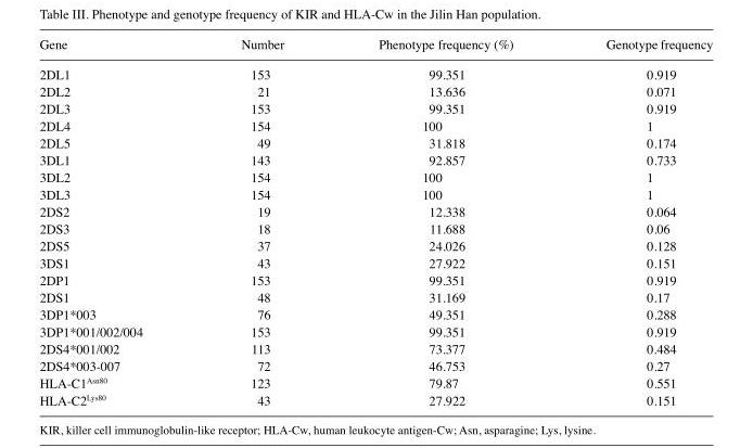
<table><thead><tr><td>Gene</td><td>Number</td><td>Phenotype frequency (%)</td><td>Genotype frequency</td></tr></thead><tbody><tr><td>2DL1</td><td>153</td><td>99.351</td><td>0.919</td></tr><tr><td>2DL2</td><td>21</td><td>13.636</td><td>0.071</td></tr><tr><td>2DL3</td><td>153</td><td>99.351</td><td>0.919</td></tr><tr><td>2DL4</td><td>154</td><td>100</td><td>1</td></tr><tr><td>2DL5</td><td>49</td><td>31.818</td><td>0.174</td></tr><tr><td>3DL1</td><td>143</td><td>92.857</td><td>0.733</td></tr><tr><td>3DL2</td><td>154</td><td>100</td><td>1</td></tr><tr><td>3DL3</td><td>154</td><td>100</td><td>1</td></tr><tr><td>2DS2</td><td>19</td><td>12.338</td><td>0.064</td></tr><tr><td>2DS3</td><td>18</td><td>11.688</td><td>0.06</td></tr><tr><td>2DS5</td><td>37</td><td>24.026</td><td>0.128</td></tr><tr><td>3DS1</td><td>43</td><td>27.922</td><td>0.151</td></tr><tr><td>2DP1</td><td>153</td><td>99.351</td><td>0.919</td></tr><tr><td>2DS1</td><td>48</td><td>31.169</td><td>0.17</td></tr><tr><td>3DP1*003</td><td>76</td><td>49.351</td><td>0.288</td></tr><tr><td>3DP1*001/002/004</td><td>153</td><td>99.351</td><td>0.919</td></tr><tr><td>2DS4*001/002</td><td>113</td><td>73.377</td><td>0.484</td></tr><tr><td>2DS4*003‑007</td><td>72</td><td>46.753</td><td>0.27</td></tr><tr><td>HLA‑C1<sup>Asn80</sup></td><td>123</td><td>79.87</td><td>0.551</td></tr><tr><td>HLA‑C2<sup>Lys80</sup></td><td>43</td><td>27.922</td><td>0.151</td></tr></tbody></table>